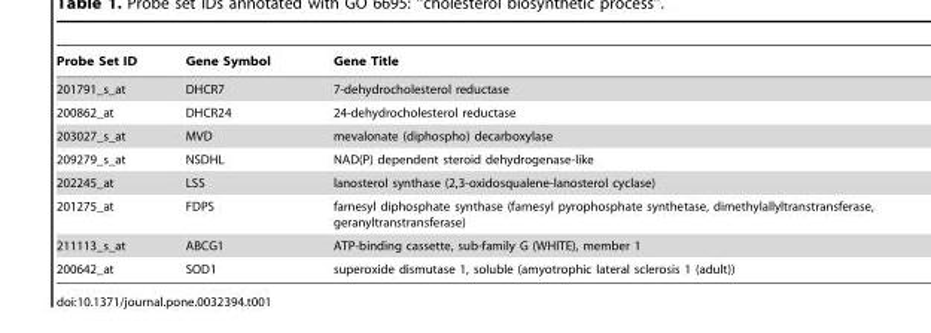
<table><thead><tr><td>Probe Set ID</td><td>Gene Symbol</td><td>Gene Title</td></tr></thead><tbody><tr><td>201791_s_at</td><td>DHCR7</td><td>7-dehydrocholesterol reductase</td></tr><tr><td>200862_at</td><td>DHCR24</td><td>24-dehydrocholesterol reductase</td></tr><tr><td>203027_s_at</td><td>MVD</td><td>mevalonate (diphospho) decarboxylase</td></tr><tr><td>209279_s_at</td><td>NSDHL</td><td>NAD(P) dependent steroid dehydrogenase-like</td></tr><tr><td>202245_at</td><td>LSS</td><td>lanosterol synthase (2,3-oxidosqualene-lanosterol cyclase)</td></tr><tr><td>201275_at</td><td>FDPS</td><td>farnesyl diphosphate synthase (farnesyl pyrophosphate synthetase, dimethylallyltranstransferase, geranyltranstransferase)</td></tr><tr><td>211113_s_at</td><td>ABCG1</td><td>ATP-binding cassette, sub-family G (WHITE), member 1</td></tr><tr><td>200642_at</td><td>SOD1</td><td>superoxide dismutase 1, soluble (amyotrophic lateral sclerosis 1 (adult))</td></tr></tbody></table>